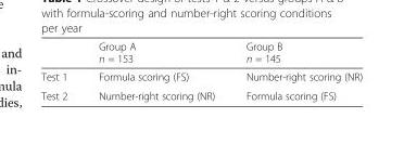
<table><thead><tr><td></td><td>Group A n = 153</td><td>Group B n = 145</td></tr></thead><tbody><tr><td>Test 1</td><td>Formula scoring (FS)</td><td>Number-right scoring (NR)</td></tr><tr><td>Test 2</td><td>Number-right scoring (NR)</td><td>Formula scoring (FS)</td></tr></tbody></table>